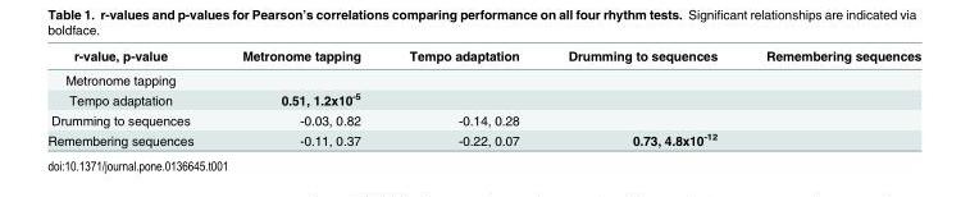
<table><thead><tr><td>r-value, p-value</td><td>Metronome tapping</td><td>Tempo adaptation</td><td>Drumming to sequences</td><td>Remembering sequences</td></tr></thead><tbody><tr><td colspan="5">Metronome tapping</td></tr><tr><td>Tempo adaptation</td><td>0.51, 1.2x10<sup>-5</sup></td><td></td><td></td><td></td></tr><tr><td>Drumming to sequences</td><td>-0.03, 0.82</td><td>-0.14, 0.28</td><td></td><td></td></tr><tr><td>Remembering sequences</td><td>-0.11, 0.37</td><td>-0.22, 0.07</td><td>0.73, 4.8x10<sup>-12</sup></td><td></td></tr></tbody></table>